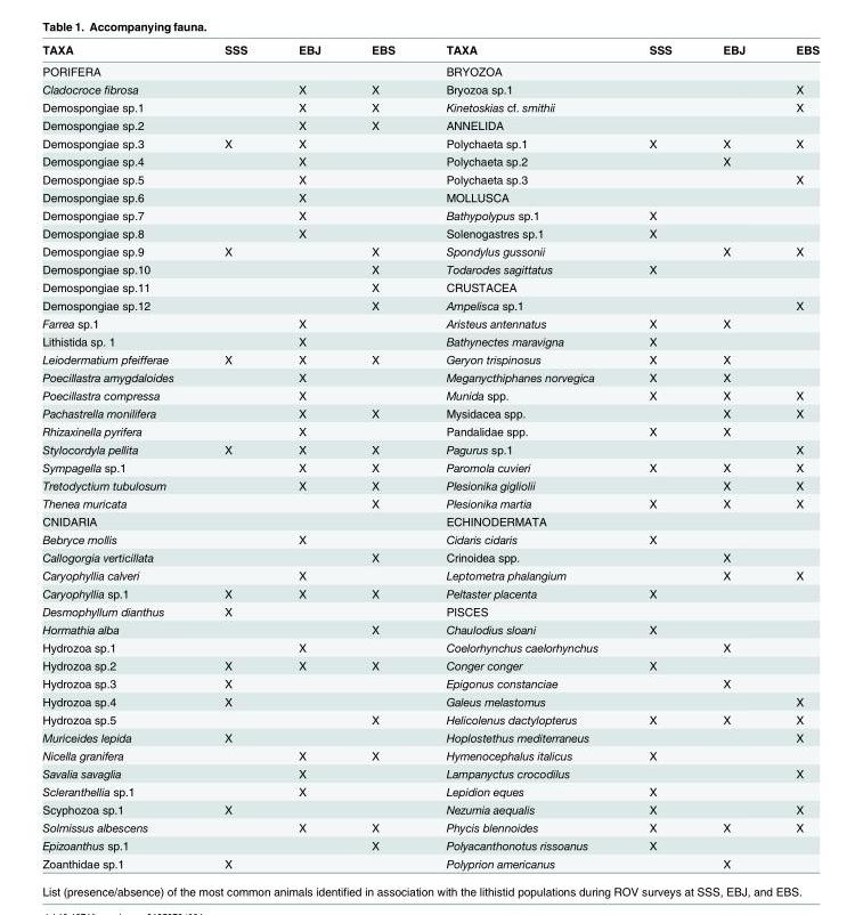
<table><thead><tr><td>TAXA</td><td>SSS</td><td>EBJ</td><td>EBS</td><td>TAXA</td><td>SSS</td><td>EBJ</td><td>EBS</td></tr></thead><tbody><tr><td>PORIFERA</td><td></td><td></td><td></td><td>BRYOZOA</td><td></td><td></td><td></td></tr><tr><td>Cladocroce fibrosa</td><td></td><td>X</td><td>X</td><td>Bryozoa sp.1</td><td></td><td></td><td>X</td></tr><tr><td>Demospongiae sp.1</td><td></td><td>X</td><td>X</td><td>Kinetoskias cf. smithii</td><td></td><td></td><td>X</td></tr><tr><td>Demospongiae sp.2</td><td></td><td>X</td><td>X</td><td>ANNELIDA</td><td></td><td></td><td></td></tr><tr><td>Demospongiae sp.3</td><td>X</td><td>X</td><td></td><td>Polychaeta sp.1</td><td>X</td><td>X</td><td>X</td></tr><tr><td>Demospongiae sp.4</td><td></td><td>X</td><td></td><td>Polychaeta sp.2</td><td></td><td>X</td><td></td></tr><tr><td>Demospongiae sp.5</td><td></td><td>X</td><td></td><td>Polychaeta sp.3</td><td></td><td></td><td>X</td></tr><tr><td>Demospongiae sp.6</td><td></td><td>X</td><td></td><td>MOLLUSCA</td><td></td><td></td><td></td></tr><tr><td>Demospongiae sp.7</td><td></td><td>X</td><td></td><td>Bathypolypus sp.1</td><td>X</td><td></td><td></td></tr><tr><td>Demospongiae sp.8</td><td></td><td>X</td><td></td><td>Solenogastres sp.1</td><td>X</td><td></td><td></td></tr><tr><td>Demospongiae sp.9</td><td>X</td><td></td><td>X</td><td>Spondylus gussonii</td><td></td><td>X</td><td>X</td></tr><tr><td>Demospongiae sp.10</td><td></td><td></td><td>X</td><td>Todarodes sagittatus</td><td>X</td><td></td><td></td></tr><tr><td>Demospongiae sp.11</td><td></td><td></td><td>X</td><td>CRUSTACEA</td><td></td><td></td><td></td></tr><tr><td>Demospongiae sp.12</td><td></td><td></td><td>X</td><td>Ampelisca sp.1</td><td></td><td></td><td>X</td></tr><tr><td>Farrea sp.1</td><td></td><td>X</td><td></td><td>Aristeus antennatus</td><td>X</td><td>X</td><td></td></tr><tr><td>Lithistida sp. 1</td><td></td><td>X</td><td></td><td>Bathynectes maravigna</td><td>X</td><td></td><td></td></tr><tr><td>Leiodermatium pfeifferae</td><td>X</td><td>X</td><td>X</td><td>Geryon trispinosus</td><td>X</td><td>X</td><td></td></tr><tr><td>Poecillastra amygdaloides</td><td></td><td>X</td><td></td><td>Meganycthiphanes norvegica</td><td>X</td><td>X</td><td></td></tr><tr><td>Poecillastra compressa</td><td></td><td>X</td><td></td><td>Munida spp.</td><td>X</td><td>X</td><td>X</td></tr><tr><td>Pachastrella monilifera</td><td></td><td>X</td><td>X</td><td>Mysidacea spp.</td><td></td><td>X</td><td>X</td></tr><tr><td>Rhizaxinella pyrifera</td><td></td><td>X</td><td></td><td>Pandalidae spp.</td><td>X</td><td>X</td><td></td></tr><tr><td>Stylocordyla pellita</td><td>X</td><td>X</td><td>X</td><td>Pagurus sp.1</td><td></td><td></td><td>X</td></tr><tr><td>Sympagella sp.1</td><td></td><td>X</td><td>X</td><td>Paromola cuvieri</td><td>X</td><td>X</td><td>X</td></tr><tr><td>Tretodyctium tubulosum</td><td></td><td>X</td><td>X</td><td>Plesionika gigliolii</td><td></td><td>X</td><td>X</td></tr><tr><td>Thenea muricata</td><td></td><td></td><td>X</td><td>Plesionika martia</td><td>X</td><td>X</td><td>X</td></tr><tr><td>CNIDARIA</td><td></td><td></td><td></td><td>ECHINODERMATA</td><td></td><td></td><td></td></tr><tr><td>Bebryce mollis</td><td></td><td>X</td><td></td><td>Cidaris cidaris</td><td>X</td><td></td><td></td></tr><tr><td>Callogorgia verticillata</td><td></td><td></td><td>X</td><td>Crinoidea spp.</td><td></td><td>X</td><td></td></tr><tr><td>Caryophyllia calveri</td><td></td><td>X</td><td></td><td>Leptometra phalangium</td><td></td><td>X</td><td>X</td></tr><tr><td>Caryophyllia sp.1</td><td>X</td><td>X</td><td>X</td><td>Peltaster placenta</td><td>X</td><td></td><td></td></tr><tr><td>Desmophyllum dianthus</td><td>X</td><td></td><td></td><td>PISCES</td><td></td><td></td><td></td></tr><tr><td>Hormathia alba</td><td></td><td></td><td>X</td><td>Chaulodius sloani</td><td>X</td><td></td><td></td></tr><tr><td>Hydrozoa sp.1</td><td></td><td>X</td><td></td><td>Coelorhynchus caelorhynchus</td><td></td><td>X</td><td></td></tr><tr><td>Hydrozoa sp.2</td><td>X</td><td>X</td><td>X</td><td>Conger conger</td><td>X</td><td></td><td></td></tr><tr><td>Hydrozoa sp.3</td><td>X</td><td></td><td></td><td>Epigonus constanciae</td><td></td><td>X</td><td></td></tr><tr><td>Hydrozoa sp.4</td><td>X</td><td></td><td></td><td>Galeus melastomus</td><td></td><td></td><td>X</td></tr><tr><td>Hydrozoa sp.5</td><td></td><td></td><td>X</td><td>Helicolenus dactylopterus</td><td>X</td><td>X</td><td>X</td></tr><tr><td>Muriceides lepida</td><td>X</td><td></td><td></td><td>Hoplostethus mediterraneus</td><td></td><td></td><td>X</td></tr><tr><td>Nicella granifera</td><td></td><td>X</td><td>X</td><td>Hymenocephalus italicus</td><td>X</td><td></td><td></td></tr><tr><td>Savalia savaglia</td><td></td><td>X</td><td></td><td>Lampanyctus crocodilus</td><td></td><td></td><td>X</td></tr><tr><td>Scleranthellia sp.1</td><td></td><td>X</td><td></td><td>Lepidion eques</td><td>X</td><td></td><td></td></tr><tr><td>Scyphozoa sp.1</td><td>X</td><td></td><td></td><td>Nezumia aequalis</td><td>X</td><td></td><td>X</td></tr><tr><td>Solmissus albescens</td><td></td><td>X</td><td>X</td><td>Phycis blennoides</td><td>X</td><td>X</td><td>X</td></tr><tr><td>Epizoanthus sp.1</td><td></td><td></td><td>X</td><td>Polyacanthonotus rissoanus</td><td>X</td><td></td><td></td></tr><tr><td>Zoanthidae sp.1</td><td>X</td><td></td><td></td><td>Polyprion americanus</td><td></td><td>X</td><td></td></tr></tbody></table>